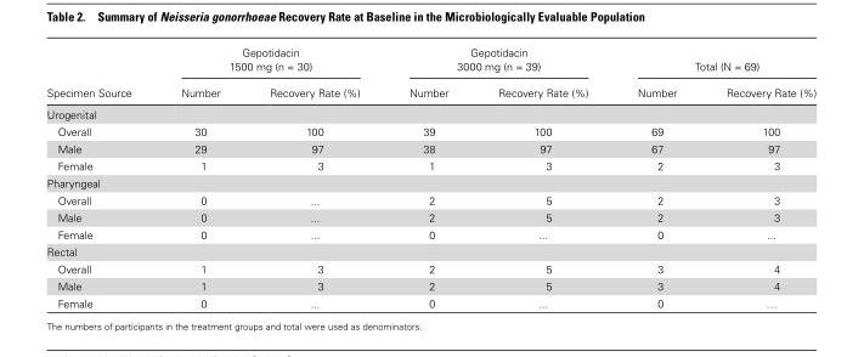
<table><thead><tr><td rowspan="2">Specimen Source</td><td colspan="2">Gepotidacin 1500 mg (n = 30)</td><td colspan="2">Gepotidacin 3000 mg (n = 39)</td><td colspan="2">Total (N = 69)</td></tr><tr><td>Number</td><td>Recovery Rate (%)</td><td>Number</td><td>Recovery Rate (%)</td><td>Number</td><td>Recovery Rate (%)</td></tr></thead><tbody><tr><td colspan="7">Urogenital</td></tr><tr><td>Overall</td><td>30</td><td>100</td><td>39</td><td>100</td><td>69</td><td>100</td></tr><tr><td>Male</td><td>29</td><td>97</td><td>38</td><td>97</td><td>67</td><td>97</td></tr><tr><td>Female</td><td>1</td><td>3</td><td>1</td><td>3</td><td>2</td><td>3</td></tr><tr><td colspan="7">Pharyngeal</td></tr><tr><td>Overall</td><td>0</td><td>...</td><td>2</td><td>5</td><td>2</td><td>3</td></tr><tr><td>Male</td><td>0</td><td>...</td><td>2</td><td>5</td><td>2</td><td>3</td></tr><tr><td>Female</td><td>0</td><td>...</td><td>0</td><td>...</td><td>0</td><td>...</td></tr><tr><td colspan="7">Rectal</td></tr><tr><td>Overall</td><td>1</td><td>3</td><td>2</td><td>5</td><td>3</td><td>4</td></tr><tr><td>Male</td><td>1</td><td>3</td><td>2</td><td>5</td><td>3</td><td>4</td></tr><tr><td>Female</td><td>0</td><td>...</td><td>0</td><td>...</td><td>0</td><td>…</td></tr></tbody></table>